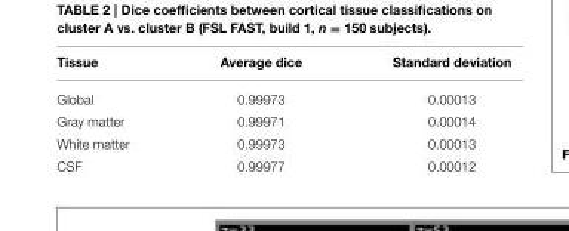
<table><thead><tr><td>Tissue</td><td>Average dice</td><td>Standard deviation</td></tr></thead><tbody><tr><td>Global</td><td>0.99973</td><td>0.00013</td></tr><tr><td>Gray matter</td><td>0.99971</td><td>0.00014</td></tr><tr><td>White matter</td><td>0.99973</td><td>0.00013</td></tr><tr><td>CSF</td><td>0.99977</td><td>0.00012</td></tr></tbody></table>